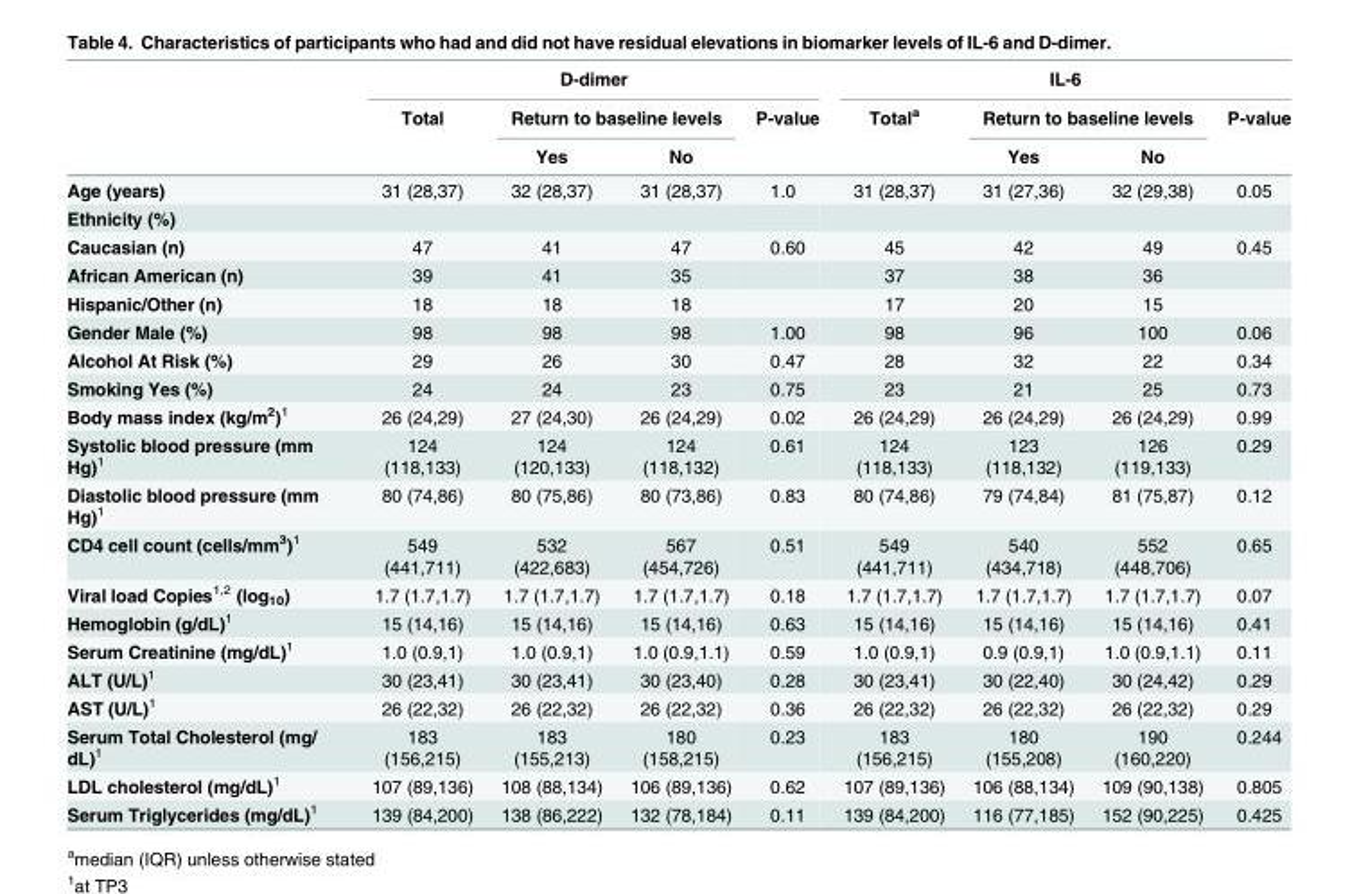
<table><thead><tr><td rowspan="3"></td><td colspan="4">D-dimer</td><td colspan="4">IL-6</td></tr><tr><td rowspan="2">Total</td><td colspan="2">Return to baseline levels</td><td rowspan="2">P-value</td><td rowspan="2">Total<sup>a</sup></td><td colspan="2">Return to baseline levels</td><td rowspan="2">P-value</td></tr><tr><td>Yes</td><td>No</td><td>Yes</td><td>No</td></tr></thead><tbody><tr><td>Age (years)</td><td>31 (28,37)</td><td>32 (28,37)</td><td>31 (28,37)</td><td>1.0</td><td>31 (28,37)</td><td>31 (27,36)</td><td>32 (29,38)</td><td>0.05</td></tr><tr><td colspan="9">Ethnicity (%)</td></tr><tr><td>Caucasian (n)</td><td>47</td><td>41</td><td>47</td><td>0.60</td><td>45</td><td>42</td><td>49</td><td>0.45</td></tr><tr><td>African American (n)</td><td>39</td><td>41</td><td>35</td><td></td><td>37</td><td>38</td><td>36</td><td></td></tr><tr><td>Hispanic/Other (n)</td><td>18</td><td>18</td><td>18</td><td></td><td>17</td><td>20</td><td>15</td><td></td></tr><tr><td>Gender Male (%)</td><td>98</td><td>98</td><td>98</td><td>1.00</td><td>98</td><td>96</td><td>100</td><td>0.06</td></tr><tr><td>Alcohol At Risk (%)</td><td>29</td><td>26</td><td>30</td><td>0.47</td><td>28</td><td>32</td><td>22</td><td>0.34</td></tr><tr><td>Smoking Yes (%)</td><td>24</td><td>24</td><td>23</td><td>0.75</td><td>23</td><td>21</td><td>25</td><td>0.73</td></tr><tr><td>Body mass index (kg/m<sup>2</sup>)<sup>1</sup></td><td>26 (24,29)</td><td>27 (24,30)</td><td>26 (24,29)</td><td>0.02</td><td>26 (24,29)</td><td>26 (24,29)</td><td>26 (24,29)</td><td>0.99</td></tr><tr><td>Systolic blood pressure (mm Hg)<sup>1</sup></td><td>124 (118,133)</td><td>124 (120,133)</td><td>124 (118,132)</td><td>0.61</td><td>124 (118,133)</td><td>123 (118,132)</td><td>126 (119,133)</td><td>0.29</td></tr><tr><td>Diastolic blood pressure (mm Hg)<sup>1</sup></td><td>80 (74,86)</td><td>80 (75,86)</td><td>80 (73,86)</td><td>0.83</td><td>80 (74,86)</td><td>79 (74,84)</td><td>81 (75,87)</td><td>0.12</td></tr><tr><td>CD4 cell count (cells/mm<sup>3</sup>)<sup>1</sup></td><td>549 (441,711)</td><td>532 (422,683)</td><td>567 (454,726)</td><td>0.51</td><td>549 (441,711)</td><td>540 (434,718)</td><td>552 (448,706)</td><td>0.65</td></tr><tr><td>Viral load Copies<sup>1,2</sup> (log<sub>10</sub>)</td><td>1.7 (1.7,1.7)</td><td>1.7 (1.7,1.7)</td><td>1.7 (1.7,1.7)</td><td>0.18</td><td>1.7 (1.7,1.7)</td><td>1.7 (1.7,1.7)</td><td>1.7 (1.7,1.7)</td><td>0.07</td></tr><tr><td>Hemoglobin (g/dL)<sup>1</sup></td><td>15 (14,16)</td><td>15 (14,16)</td><td>15 (14,16)</td><td>0.63</td><td>15 (14,16)</td><td>15 (14,16)</td><td>15 (14,16)</td><td>0.41</td></tr><tr><td>Serum Creatinine (mg/dL)<sup>1</sup></td><td>1.0 (0.9,1)</td><td>1.0 (0.9,1)</td><td>1.0 (0.9,1.1)</td><td>0.59</td><td>1.0 (0.9,1)</td><td>0.9 (0.9,1)</td><td>1.0 (0.9,1.1)</td><td>0.11</td></tr><tr><td>ALT (U/L)<sup>1</sup></td><td>30 (23,41)</td><td>30 (23,41)</td><td>30 (23,40)</td><td>0.28</td><td>30 (23,41)</td><td>30 (22,40)</td><td>30 (24,42)</td><td>0.29</td></tr><tr><td>AST (U/L)<sup>1</sup></td><td>26 (22,32)</td><td>26 (22,32)</td><td>26 (22,32)</td><td>0.36</td><td>26 (22,32)</td><td>26 (22,32)</td><td>26 (22,32)</td><td>0.29</td></tr><tr><td>Serum Total Cholesterol (mg/ dL)<sup>1</sup></td><td>183 (156,215)</td><td>183 (155,213)</td><td>180 (158,215)</td><td>0.23</td><td>183 (156,215)</td><td>180 (155,208)</td><td>190 (160,220)</td><td>0.244</td></tr><tr><td>LDL cholesterol (mg/dL)<sup>1</sup></td><td>107 (89,136)</td><td>108 (88,134)</td><td>106 (89,136)</td><td>0.62</td><td>107 (89,136)</td><td>106 (88,134)</td><td>109 (90,138)</td><td>0.805</td></tr><tr><td>Serum Triglycerides (mg/dL)<sup>1</sup></td><td>139 (84,200)</td><td>138 (86,222)</td><td>132 (78,184)</td><td>0.11</td><td>139 (84,200)</td><td>116 (77,185)</td><td>152 (90,225)</td><td>0.425</td></tr></tbody></table>